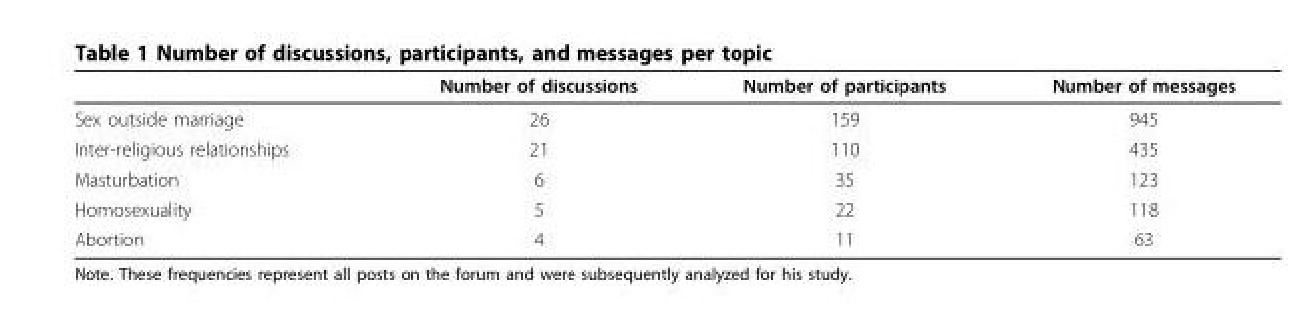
<table><thead><tr><td></td><td>Number of discussions</td><td>Number of participants</td><td>Number of messages</td></tr></thead><tbody><tr><td>Sex outside marriage</td><td>26</td><td>159</td><td>945</td></tr><tr><td>Inter-religious relationships</td><td>21</td><td>110</td><td>435</td></tr><tr><td>Masturbation</td><td>6</td><td>35</td><td>123</td></tr><tr><td>Homosexuality</td><td>5</td><td>22</td><td>118</td></tr><tr><td>Abortion</td><td>4</td><td>11</td><td>63</td></tr></tbody></table>